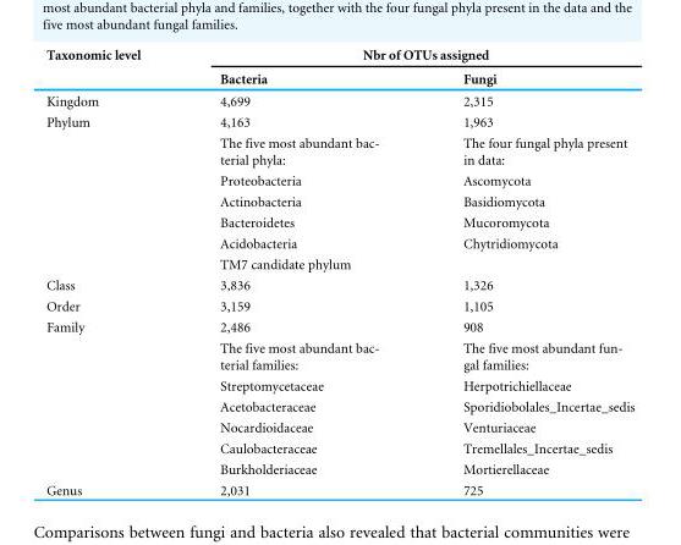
<table><thead><tr><td rowspan="2">Taxonomic level</td><td colspan="2">Nbr of OTUs assigned</td></tr><tr><td>Bacteria</td><td>Fungi</td></tr></thead><tbody><tr><td>Kingdom</td><td>4,699</td><td>2,315</td></tr><tr><td rowspan="7">Phylum</td><td>4,163</td><td>1,963</td></tr><tr><td>The five most abundant bac- terial phyla:</td><td>The four fungal phyla present in data:</td></tr><tr><td>Proteobacteria</td><td>Ascomycota</td></tr><tr><td>Actinobacteria</td><td>Basidiomycota</td></tr><tr><td>Bacteroidetes</td><td>Mucoromycota</td></tr><tr><td>Acidobacteria</td><td>Chytridiomycota</td></tr><tr><td>TM7 candidate phylum</td><td></td></tr><tr><td>Class</td><td>3,836</td><td>1,326</td></tr><tr><td>Order</td><td>3,159</td><td>1,105</td></tr><tr><td rowspan="7">Family</td><td>2,486</td><td>908</td></tr><tr><td>The five most abundant bac- terial families:</td><td>The five most abundant fun- gal families:</td></tr><tr><td>Streptomycetaceae</td><td>Herpotrichiellaceae</td></tr><tr><td>Acetobacteraceae</td><td>Sporidiobolales_Incertae_sedis</td></tr><tr><td>Nocardioidaceae</td><td>Venturiaceae</td></tr><tr><td>Caulobacteraceae</td><td>Tremellales_Incertae_sedis</td></tr><tr><td>Burkholderiaceae</td><td>Mortierellaceae</td></tr><tr><td>Genus</td><td>2,031</td><td>725</td></tr></tbody></table>